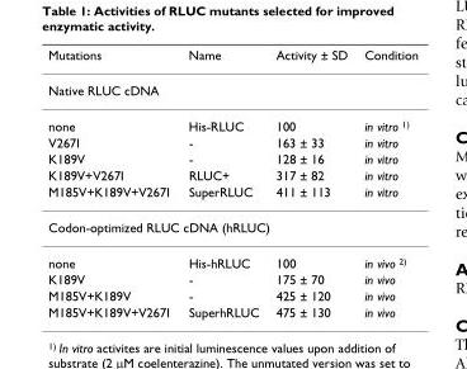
<table><thead><tr><td>Mutations</td><td>Name</td><td>Activity ± SD</td><td>Condition</td></tr></thead><tbody><tr><td colspan="4">Native RLUC cDNA</td></tr><tr><td>none</td><td>His-RLUC</td><td>100</td><td>in vitro <sup>1)</sup></td></tr><tr><td>V267I</td><td>-</td><td>163 ± 33</td><td>in vitro</td></tr><tr><td>K189V</td><td>-</td><td>128 ± 16</td><td>in vitro</td></tr><tr><td>K189V+V267I</td><td>RLUC+</td><td>317 ± 82</td><td>in vitro</td></tr><tr><td>M185V+K189V+V267I</td><td>SuperRLUC</td><td>411 ± 113</td><td>in vitro</td></tr><tr><td colspan="4">Codon-optimized RLUC cDNA (hRLUC)</td></tr><tr><td>none</td><td>His-hRLUC</td><td>100</td><td>in vivo <sup>2)</sup></td></tr><tr><td>K189V</td><td>-</td><td>175 ± 70</td><td>in vivo</td></tr><tr><td>M185V+K189V</td><td>-</td><td>425 ± 120</td><td>in vivo</td></tr><tr><td>M185V+K189V+V267I</td><td>SuperhRLUC</td><td>475 ± 130</td><td>in vivo</td></tr></tbody></table>